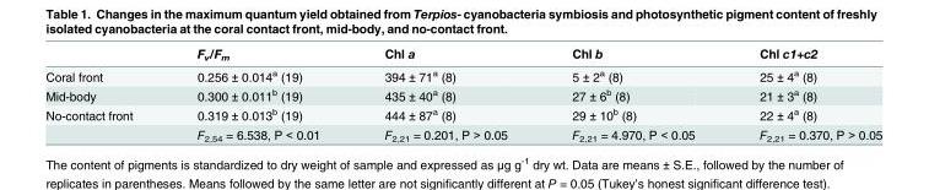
<table><thead><tr><td></td><td>F<sub>v</sub>/F<sub>m</sub></td><td>Chl a</td><td>Chl b</td><td>Chl c1+c2</td></tr></thead><tbody><tr><td>Coral front</td><td>0.256 ± 0.014<sup>a</sup> (19)</td><td>394 ± 71<sup>a</sup> (8)</td><td>5 ± 2<sup>a</sup> (8)</td><td>25 ± 4<sup>a</sup> (8)</td></tr><tr><td>Mid-body</td><td>0.300 ± 0.011<sup>b</sup> (19)</td><td>435 ± 40<sup>a</sup> (8)</td><td>27 ± 6<sup>b</sup> (8)</td><td>21 ± 3<sup>a</sup> (8)</td></tr><tr><td rowspan="2">No-contact front</td><td>0.319 ± 0.013<sup>b</sup> (19)</td><td>444 ± 87<sup>a</sup> (8)</td><td>29 ± 10<sup>b</sup> (8)</td><td>22 ± 4<sup>a</sup> (8)</td></tr><tr><td>F<sub>2,54</sub> = 6.538, P &lt; 0.01</td><td>F<sub>2,21</sub> = 0.201, P &gt; 0.05</td><td>F<sub>2,21</sub> = 4.970, P &lt; 0.05</td><td>F<sub>2,21</sub> = 0.370, P &gt; 0.05</td></tr></tbody></table>